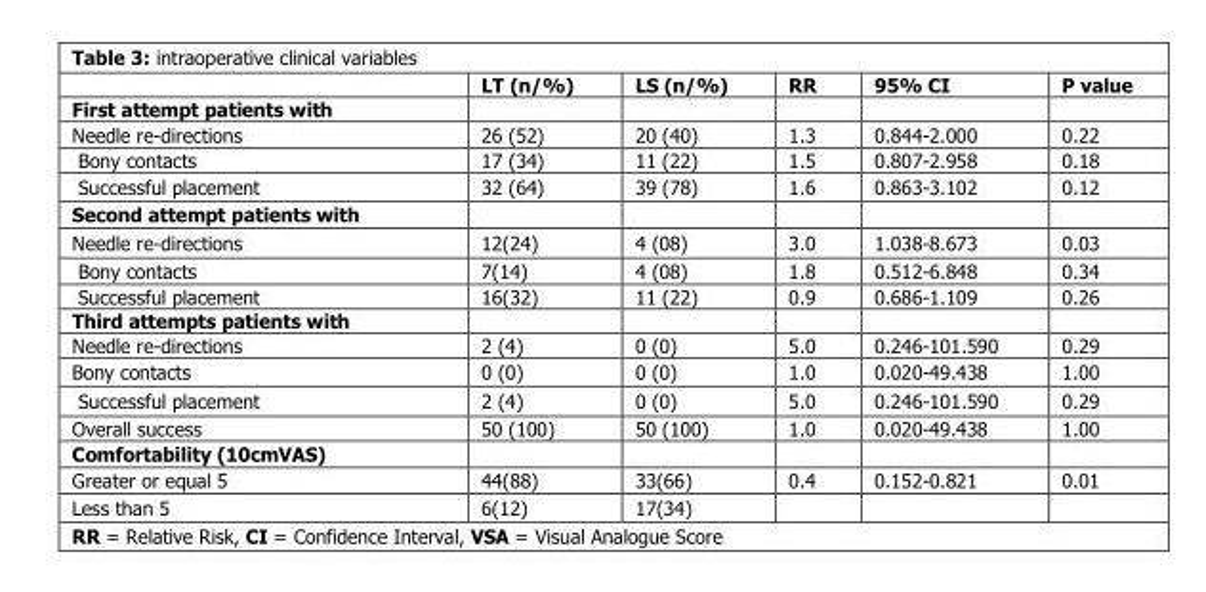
<table><thead><tr><td></td><td>LT (n/%)</td><td>LS (n/%)</td><td>RR</td><td>95% CI</td><td>P value</td></tr></thead><tbody><tr><td colspan="6">First attempt patients with</td></tr><tr><td>Needle re-directions</td><td>26 (52)</td><td>20 (40)</td><td>1.3</td><td>0.844-2.000</td><td>0.22</td></tr><tr><td>Bony contacts</td><td>17 (34)</td><td>11 (22)</td><td>1.5</td><td>0.807-2.958</td><td>0.18</td></tr><tr><td>Successful placement</td><td>32 (64)</td><td>39 (78)</td><td>1.6</td><td>0.863-3.102</td><td>0.12</td></tr><tr><td colspan="6">Second attempt patients with</td></tr><tr><td>Needle re-directions</td><td>12(24)</td><td>4 (08)</td><td>3.0</td><td>1.038-8.673</td><td>0.03</td></tr><tr><td>Bony contacts</td><td>7(14)</td><td>4 (08)</td><td>1.8</td><td>0.512-6.848</td><td>0.34</td></tr><tr><td>Successful placement</td><td>16(32)</td><td>11 (22)</td><td>0.9</td><td>0.686-1.109</td><td>0.26</td></tr><tr><td colspan="6">Third attempts patients with</td></tr><tr><td>Needle re-directions</td><td>2 (4)</td><td>0 (0)</td><td>5.0</td><td>0.246-101.590</td><td>0.29</td></tr><tr><td>Bony contacts</td><td>0 (0)</td><td>0 (0)</td><td>1.0</td><td>0.020-49.438</td><td>1.00</td></tr><tr><td>Successful placement</td><td>2 (4)</td><td>0 (0)</td><td>5.0</td><td>0.246-101.590</td><td>0.29</td></tr><tr><td>Overall success</td><td>50 (100)</td><td>50 (100)</td><td>1.0</td><td>0.020-49.438</td><td>1.00</td></tr><tr><td colspan="6">Comfortability (10cmVAS)</td></tr><tr><td>Greater or equal 5</td><td>44(88)</td><td>33(66)</td><td>0.4</td><td>0.152-0.821</td><td>0.01</td></tr><tr><td>Less than 5</td><td>6(12)</td><td>17(34)</td><td></td><td></td><td></td></tr></tbody></table>